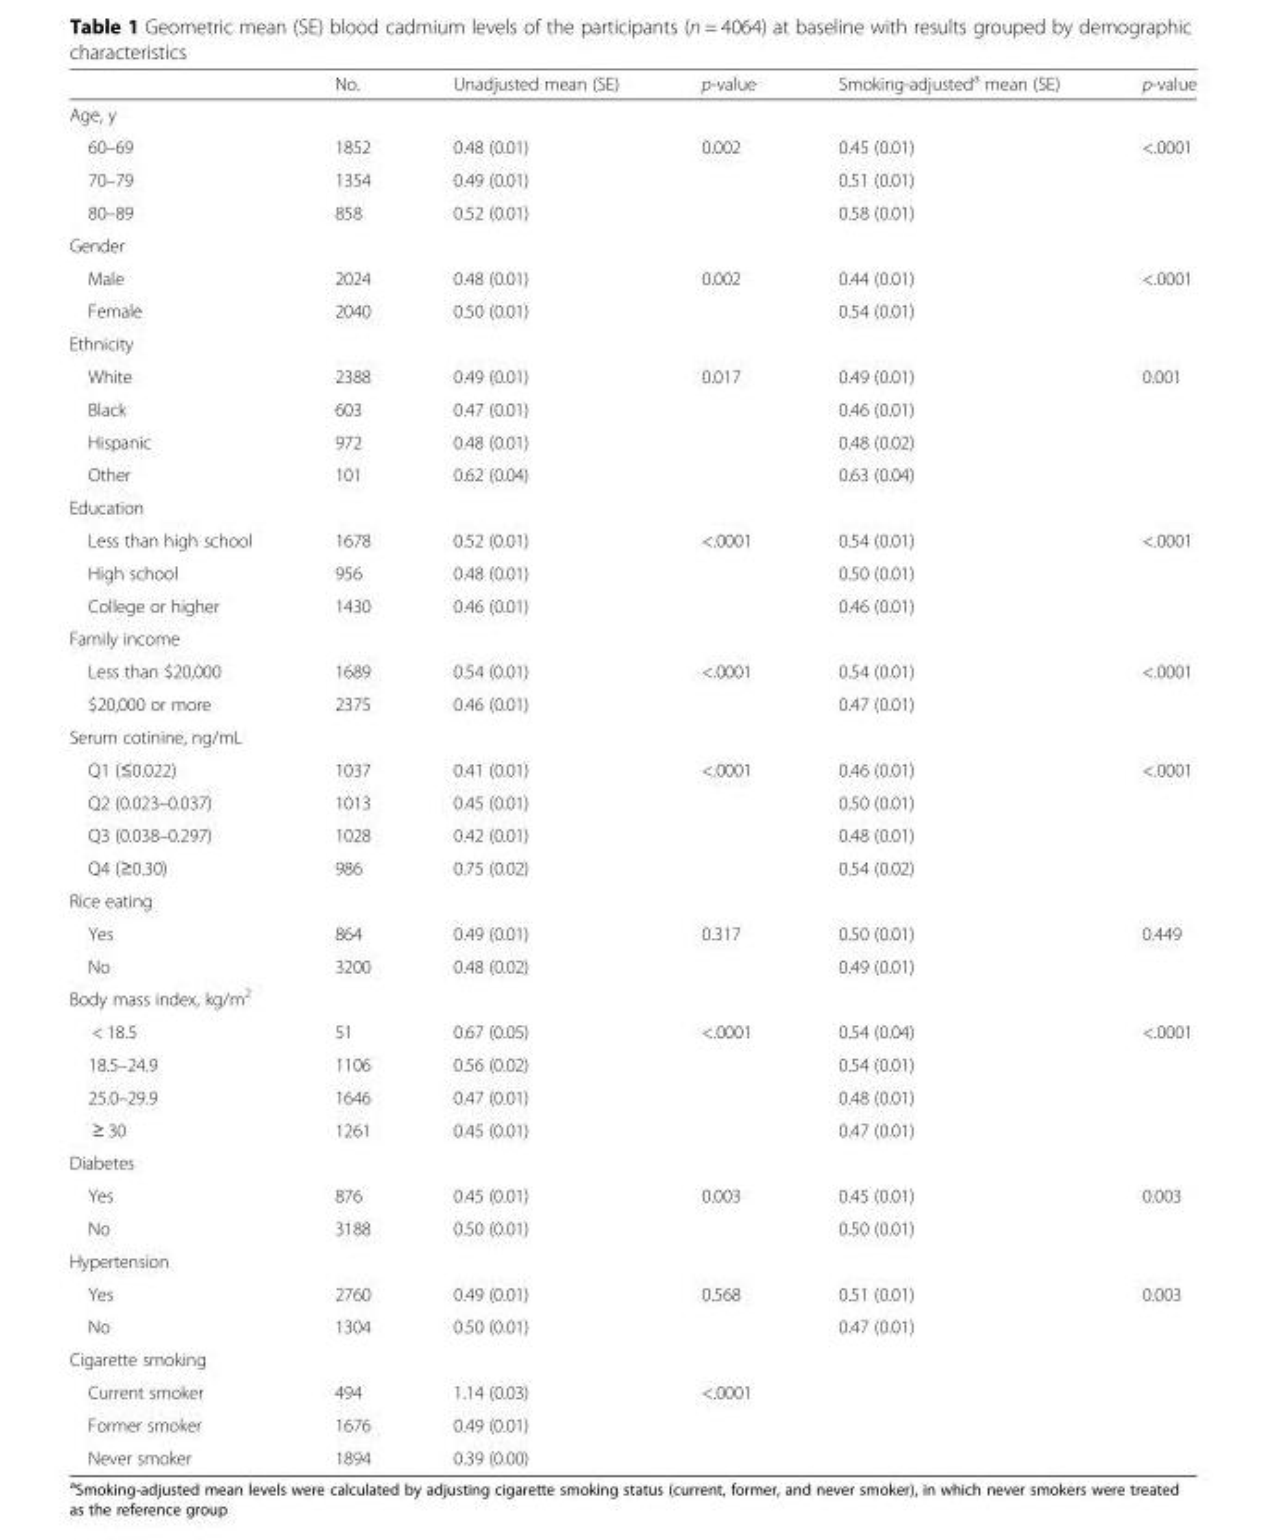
<table><thead><tr><td></td><td>No.</td><td>Unadjusted mean (SE)</td><td>p-value</td><td>Smoking-adjusted<sup>a</sup> mean (SE)</td><td>p-value</td></tr></thead><tbody><tr><td colspan="6">Age, y</td></tr><tr><td>60–69</td><td>1852</td><td>0.48 (0.01)</td><td>0.002</td><td>0.45 (0.01)</td><td>&lt;.0001</td></tr><tr><td>70–79</td><td>1354</td><td>0.49 (0.01)</td><td></td><td>0.51 (0.01)</td><td></td></tr><tr><td>80–89</td><td>858</td><td>0.52 (0.01)</td><td></td><td>0.58 (0.01)</td><td></td></tr><tr><td colspan="6">Gender</td></tr><tr><td>Male</td><td>2024</td><td>0.48 (0.01)</td><td>0.002</td><td>0.44 (0.01)</td><td>&lt;.0001</td></tr><tr><td>Female</td><td>2040</td><td>0.50 (0.01)</td><td></td><td>0.54 (0.01)</td><td></td></tr><tr><td colspan="6">Ethnicity</td></tr><tr><td>White</td><td>2388</td><td>0.49 (0.01)</td><td>0.017</td><td>0.49 (0.01)</td><td>0.001</td></tr><tr><td>Black</td><td>603</td><td>0.47 (0.01)</td><td></td><td>0.46 (0.01)</td><td></td></tr><tr><td>Hispanic</td><td>972</td><td>0.48 (0.01)</td><td></td><td>0.48 (0.02)</td><td></td></tr><tr><td>Other</td><td>101</td><td>0.62 (0.04)</td><td></td><td>0.63 (0.04)</td><td></td></tr><tr><td colspan="6">Education</td></tr><tr><td>Less than high school</td><td>1678</td><td>0.52 (0.01)</td><td>&lt;.0001</td><td>0.54 (0.01)</td><td>&lt;.0001</td></tr><tr><td>High school</td><td>956</td><td>0.48 (0.01)</td><td></td><td>0.50 (0.01)</td><td></td></tr><tr><td>College or higher</td><td>1430</td><td>0.46 (0.01)</td><td></td><td>0.46 (0.01)</td><td></td></tr><tr><td colspan="6">Family income</td></tr><tr><td>Less than $20,000</td><td>1689</td><td>0.54 (0.01)</td><td>&lt;.0001</td><td>0.54 (0.01)</td><td>&lt;.0001</td></tr><tr><td>$20,000 or more</td><td>2375</td><td>0.46 (0.01)</td><td></td><td>0.47 (0.01)</td><td></td></tr><tr><td colspan="6">Serum cotinine, ng/mL</td></tr><tr><td>Q1 (≤0.022)</td><td>1037</td><td>0.41 (0.01)</td><td>&lt;.0001</td><td>0.46 (0.01)</td><td>&lt;.0001</td></tr><tr><td>Q2 (0.023–0.037)</td><td>1013</td><td>0.45 (0.01)</td><td></td><td>0.50 (0.01)</td><td></td></tr><tr><td>Q3 (0.038–0.297)</td><td>1028</td><td>0.42 (0.01)</td><td></td><td>0.48 (0.01)</td><td></td></tr><tr><td>Q4 (≥0.30)</td><td>986</td><td>0.75 (0.02)</td><td></td><td>0.54 (0.02)</td><td></td></tr><tr><td colspan="6">Rice eating</td></tr><tr><td>Yes</td><td>864</td><td>0.49 (0.01)</td><td>0.317</td><td>0.50 (0.01)</td><td>0.449</td></tr><tr><td>No</td><td>3200</td><td>0.48 (0.02)</td><td></td><td>0.49 (0.01)</td><td></td></tr><tr><td colspan="6">Body mass index, kg/m<sup>2</sup></td></tr><tr><td>&lt; 18.5</td><td>51</td><td>0.67 (0.05)</td><td>&lt;.0001</td><td>0.54 (0.04)</td><td>&lt;.0001</td></tr><tr><td>18.5–24.9</td><td>1106</td><td>0.56 (0.02)</td><td></td><td>0.54 (0.01)</td><td></td></tr><tr><td>25.0–29.9</td><td>1646</td><td>0.47 (0.01)</td><td></td><td>0.48 (0.01)</td><td></td></tr><tr><td>≥ 30</td><td>1261</td><td>0.45 (0.01)</td><td></td><td>0.47 (0.01)</td><td></td></tr><tr><td colspan="6">Diabetes</td></tr><tr><td>Yes</td><td>876</td><td>0.45 (0.01)</td><td>0.003</td><td>0.45 (0.01)</td><td>0.003</td></tr><tr><td>No</td><td>3188</td><td>0.50 (0.01)</td><td></td><td>0.50 (0.01)</td><td></td></tr><tr><td colspan="6">Hypertension</td></tr><tr><td>Yes</td><td>2760</td><td>0.49 (0.01)</td><td>0.568</td><td>0.51 (0.01)</td><td>0.003</td></tr><tr><td>No</td><td>1304</td><td>0.50 (0.01)</td><td></td><td>0.47 (0.01)</td><td></td></tr><tr><td colspan="6">Cigarette smoking</td></tr><tr><td>Current smoker</td><td>494</td><td>1.14 (0.03)</td><td>&lt;.0001</td><td></td><td></td></tr><tr><td>Former smoker</td><td>1676</td><td>0.49 (0.01)</td><td></td><td></td><td></td></tr><tr><td>Never smoker</td><td>1894</td><td>0.39 (0.00)</td><td></td><td></td><td></td></tr></tbody></table>